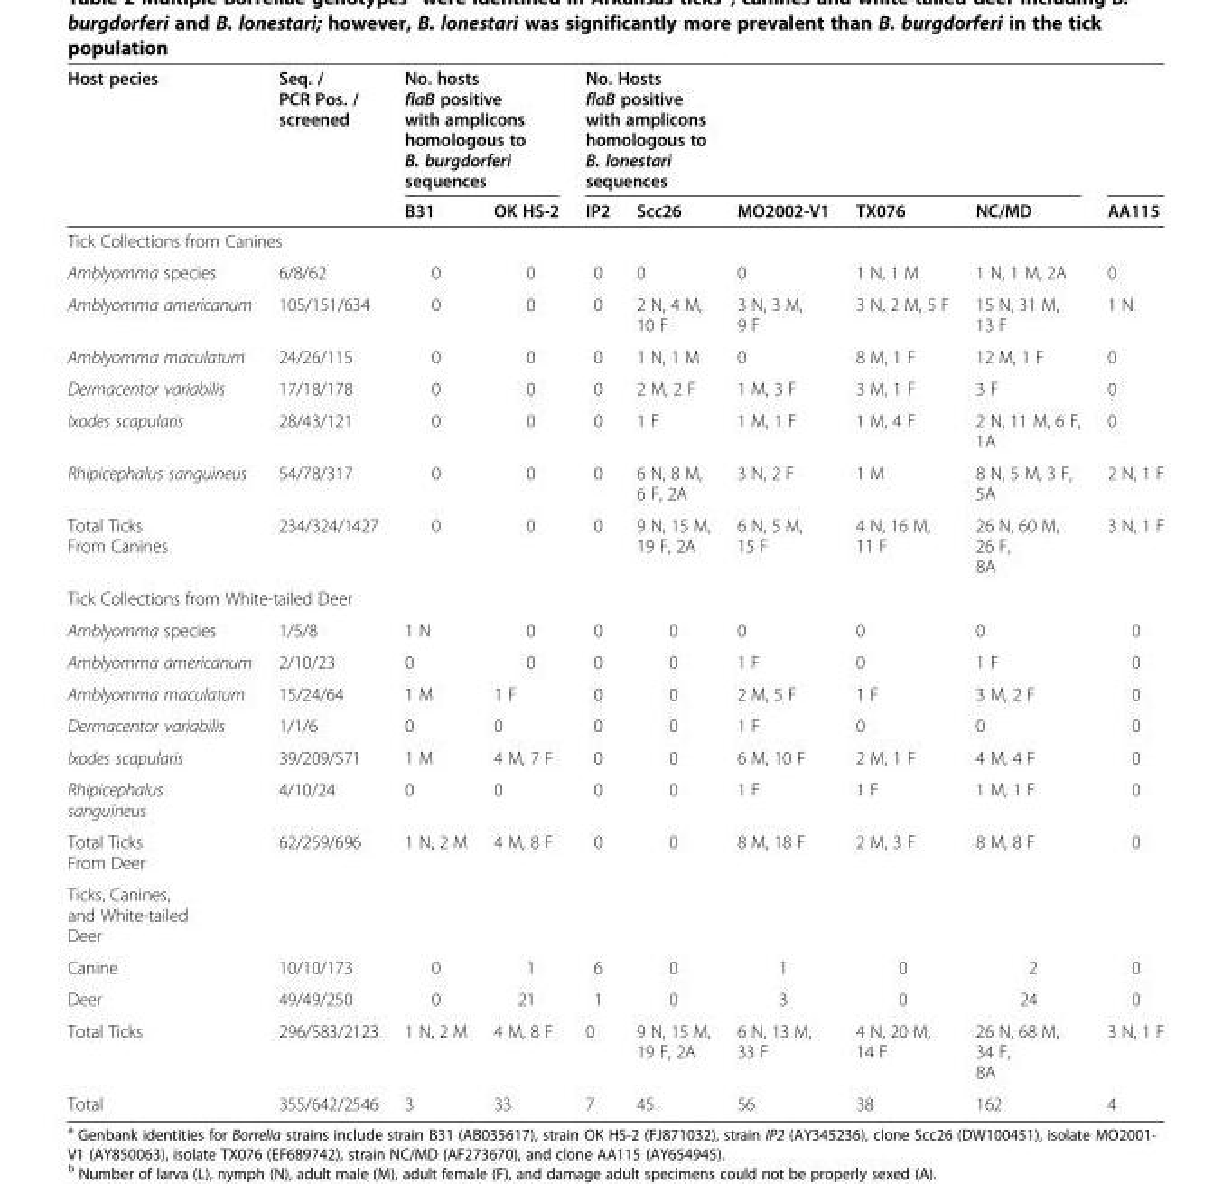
<table><thead><tr><td rowspan="2">Host pecies</td><td rowspan="2">Seq. / PCR Pos. / screened</td><td colspan="2">No. hosts flaB positive with amplicons homologous to B. burgdorferi sequences</td><td colspan="5">No. Hosts flaB positive with amplicons homologous to B. lonestari sequences</td><td rowspan="2">AA115</td></tr><tr><td>B31</td><td>OK HS-2</td><td>IP2</td><td>Scc26</td><td>MO2002-V1</td><td>TX076</td><td>NC/MD</td></tr></thead><tbody><tr><td colspan="10">Tick Collections from Canines</td></tr><tr><td>Amblyomma species</td><td>6/8/62</td><td>0</td><td>0</td><td>0</td><td>0</td><td>0</td><td>1 N, 1 M</td><td>1 N, 1 M, 2A</td><td>0</td></tr><tr><td>Amblyomma americanum</td><td>105/151/634</td><td>0</td><td>0</td><td>0</td><td>2 N, 4 M, 10 F</td><td>3 N, 3 M, 9 F</td><td>3 N, 2 M, 5 F</td><td>15 N, 31 M, 13 F</td><td>1 N</td></tr><tr><td>Amblyomma maculatum</td><td>24/26/115</td><td>0</td><td>0</td><td>0</td><td>1 N, 1 M</td><td>0</td><td>8 M, 1 F</td><td>12 M, 1 F</td><td>0</td></tr><tr><td>Dermacentor variabilis</td><td>17/18/178</td><td>0</td><td>0</td><td>0</td><td>2 M, 2 F</td><td>1 M, 3 F</td><td>3 M, 1 F</td><td>3 F</td><td>0</td></tr><tr><td>Ixodes scapularis</td><td>28/43/121</td><td>0</td><td>0</td><td>0</td><td>1 F</td><td>1 M, 1 F</td><td>1 M, 4 F</td><td>2 N, 11 M, 6 F, 1A</td><td>0</td></tr><tr><td>Rhipicephalus sanguineus</td><td>54/78/317</td><td>0</td><td>0</td><td>0</td><td>6 N, 8 M, 6 F, 2A</td><td>3 N, 2 F</td><td>1 M</td><td>8 N, 5 M, 3 F, 5A</td><td>2 N, 1 F</td></tr><tr><td>Total Ticks From Canines</td><td>234/324/1427</td><td>0</td><td>0</td><td>0</td><td>9 N, 15 M, 19 F, 2A</td><td>6 N, 5 M, 15 F</td><td>4 N, 16 M, 11 F</td><td>26 N, 60 M, 26 F, 8A</td><td>3 N, 1 F</td></tr><tr><td colspan="10">Tick Collections from White-tailed Deer</td></tr><tr><td>Amblyomma species</td><td>1/5/8</td><td>1 N</td><td>0</td><td>0</td><td>0</td><td>0</td><td>0</td><td>0</td><td>0</td></tr><tr><td>Amblyomma americanum</td><td>2/10/23</td><td>0</td><td>0</td><td>0</td><td>0</td><td>1 F</td><td>0</td><td>1 F</td><td>0</td></tr><tr><td>Amblyomma maculatum</td><td>15/24/64</td><td>1 M</td><td>1 F</td><td>0</td><td>0</td><td>2 M, 5 F</td><td>1 F</td><td>3 M, 2 F</td><td>0</td></tr><tr><td>Dermacentor variabilis</td><td>1/1/6</td><td>0</td><td>0</td><td>0</td><td>0</td><td>1 F</td><td>0</td><td>0</td><td>0</td></tr><tr><td>Ixodes scapularis</td><td>39/209/571</td><td>1 M</td><td>4 M, 7 F</td><td>0</td><td>0</td><td>6 M, 10 F</td><td>2 M, 1 F</td><td>4 M, 4 F</td><td>0</td></tr><tr><td>Rhipicephalus sanguineus</td><td>4/10/24</td><td>0</td><td>0</td><td>0</td><td>0</td><td>1 F</td><td>1 F</td><td>1 M, 1 F</td><td>0</td></tr><tr><td>Total Ticks From Deer</td><td>62/259/696</td><td>1 N, 2 M</td><td>4 M, 8 F</td><td>0</td><td>0</td><td>8 M, 18 F</td><td>2 M, 3 F</td><td>8 M, 8 F</td><td>0</td></tr><tr><td colspan="10">Ticks, Canines, and White-tailed Deer</td></tr><tr><td>Canine</td><td>10/10/173</td><td>0</td><td>1</td><td>6</td><td>0</td><td>1</td><td>0</td><td>2</td><td>0</td></tr><tr><td>Deer</td><td>49/49/250</td><td>0</td><td>21</td><td>1</td><td>0</td><td>3</td><td>0</td><td>24</td><td>0</td></tr><tr><td>Total Ticks</td><td>296/583/2123</td><td>1 N, 2 M</td><td>4 M, 8 F</td><td>0</td><td>9 N, 15 M, 19 F, 2A</td><td>6 N, 13 M, 33 F</td><td>4 N, 20 M, 14 F</td><td>26 N, 68 M, 34 F, 8A</td><td>3 N, 1 F</td></tr><tr><td>Total</td><td>355/642/2546</td><td>3</td><td>33</td><td>7</td><td>45</td><td>56</td><td>38</td><td>162</td><td>4</td></tr></tbody></table>